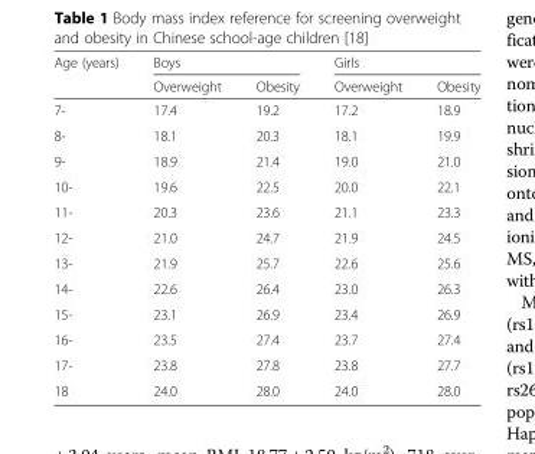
<table><thead><tr><td rowspan="2">Age (years)</td><td colspan="2">Boys</td><td colspan="2">Girls</td></tr><tr><td>Overweight</td><td>Obesity</td><td>Overweight</td><td>Obesity</td></tr></thead><tbody><tr><td>7-</td><td>17.4</td><td>19.2</td><td>17.2</td><td>18.9</td></tr><tr><td>8-</td><td>18.1</td><td>20.3</td><td>18.1</td><td>19.9</td></tr><tr><td>9-</td><td>18.9</td><td>21.4</td><td>19.0</td><td>21.0</td></tr><tr><td>10-</td><td>19.6</td><td>22.5</td><td>20.0</td><td>22.1</td></tr><tr><td>11-</td><td>20.3</td><td>23.6</td><td>21.1</td><td>23.3</td></tr><tr><td>12-</td><td>21.0</td><td>24.7</td><td>21.9</td><td>24.5</td></tr><tr><td>13-</td><td>21.9</td><td>25.7</td><td>22.6</td><td>25.6</td></tr><tr><td>14-</td><td>22.6</td><td>26.4</td><td>23.0</td><td>26.3</td></tr><tr><td>15-</td><td>23.1</td><td>26.9</td><td>23.4</td><td>26.9</td></tr><tr><td>16-</td><td>23.5</td><td>27.4</td><td>23.7</td><td>27.4</td></tr><tr><td>17-</td><td>23.8</td><td>27.8</td><td>23.8</td><td>27.7</td></tr><tr><td>18</td><td>24.0</td><td>28.0</td><td>24.0</td><td>28.0</td></tr></tbody></table>